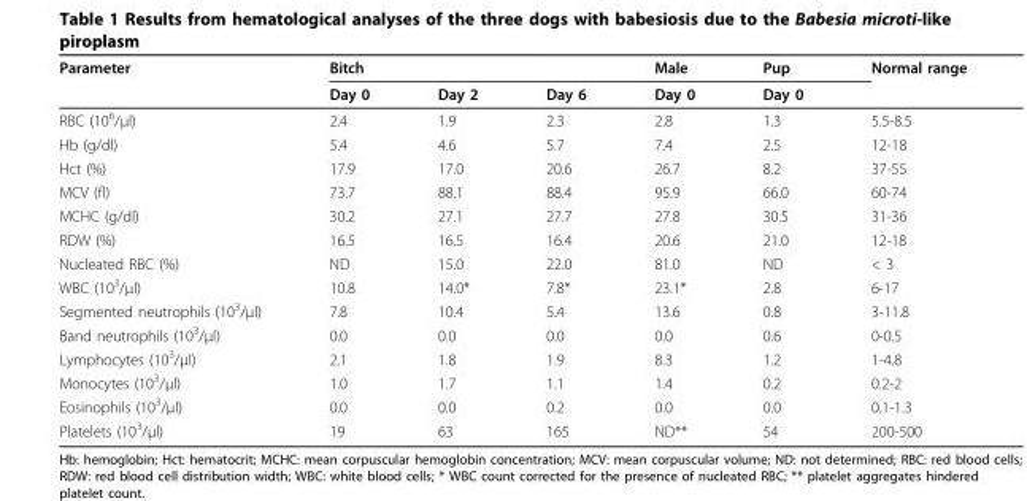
<table><tbody><tr><td rowspan="2">Parameter</td><td colspan="3">Bitch</td><td>Male</td><td>Pup</td><td>Normal range</td></tr><tr><td>Day 0</td><td>Day 2</td><td>Day 6</td><td>Day 0</td><td>Day 0</td><td></td></tr><tr><td>RBC (10<sup>6</sup>/μl)</td><td>2.4</td><td>1.9</td><td>2.3</td><td>2.8</td><td>1.3</td><td>5.5-8.5</td></tr><tr><td>Hb (g/dl)</td><td>5.4</td><td>4.6</td><td>5.7</td><td>7.4</td><td>2.5</td><td>12-18</td></tr><tr><td>Hct (%)</td><td>17.9</td><td>17.0</td><td>20.6</td><td>26.7</td><td>8.2</td><td>37-55</td></tr><tr><td>MCV (fl)</td><td>73.7</td><td>88.1</td><td>88.4</td><td>95.9</td><td>66.0</td><td>60-74</td></tr><tr><td>MCHC (g/dl)</td><td>30.2</td><td>27.1</td><td>27.7</td><td>27.8</td><td>30.5</td><td>31-36</td></tr><tr><td>RDW (%)</td><td>16.5</td><td>16.5</td><td>16.4</td><td>20.6</td><td>21.0</td><td>12-18</td></tr><tr><td>Nucleated RBC (%)</td><td>ND</td><td>15.0</td><td>22.0</td><td>81.0</td><td>ND</td><td>&lt; 3</td></tr><tr><td>WBC (10<sup>3</sup>/μl)</td><td>10.8</td><td>14.0*</td><td>7.8*</td><td>23.1*</td><td>2.8</td><td>6-17</td></tr><tr><td>Segmented neutrophils (10<sup>3</sup>/μl)</td><td>7.8</td><td>10.4</td><td>5.4</td><td>13.6</td><td>0.8</td><td>3-11.8</td></tr><tr><td>Band neutrophils (10<sup>3</sup>/μl)</td><td>0.0</td><td>0.0</td><td>0.0</td><td>0.0</td><td>0.6</td><td>0-0.5</td></tr><tr><td>Lymphocytes (10<sup>3</sup>/μl)</td><td>2.1</td><td>1.8</td><td>1.9</td><td>8.3</td><td>1.2</td><td>1-4.8</td></tr><tr><td>Monocytes (10<sup>3</sup>/μl)</td><td>1.0</td><td>1.7</td><td>1.1</td><td>1.4</td><td>0.2</td><td>0.2-2</td></tr><tr><td>Eosinophils (10<sup>3</sup>/μl)</td><td>0.0</td><td>0.0</td><td>0.2</td><td>0.0</td><td>0.0</td><td>0.1-1.3</td></tr><tr><td>Platelets (10<sup>3</sup>/μl)</td><td>19</td><td>63</td><td>165</td><td>ND**</td><td>54</td><td>200-500</td></tr></tbody></table>